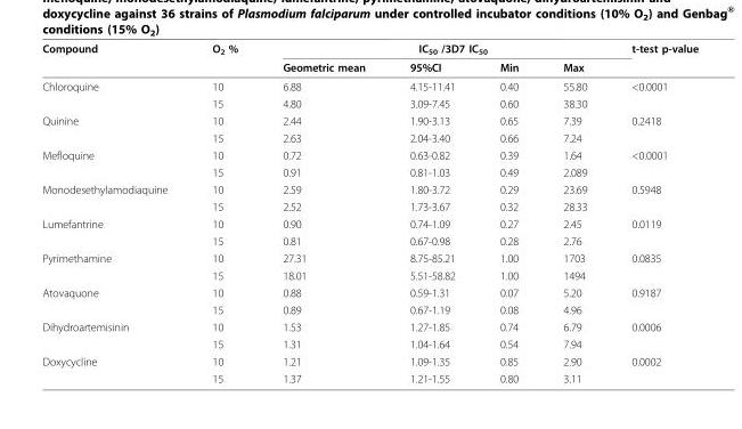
<table><thead><tr><td rowspan="2">Compound</td><td rowspan="2">O<sub>2</sub> %</td><td colspan="4">IC<sub>50</sub> /3D7 IC<sub>50</sub></td><td rowspan="2">t-test p-value</td></tr><tr><td>Geometric mean</td><td>95%CI</td><td>Min</td><td>Max</td></tr></thead><tbody><tr><td rowspan="2">Chloroquine</td><td>10</td><td>6.88</td><td>4.15-11.41</td><td>0.40</td><td>55.80</td><td>&lt;0.0001</td></tr><tr><td>15</td><td>4.80</td><td>3.09-7.45</td><td>0.60</td><td>38.30</td><td></td></tr><tr><td rowspan="2">Quinine</td><td>10</td><td>2.44</td><td>1.90-3.13</td><td>0.65</td><td>7.39</td><td>0.2418</td></tr><tr><td>15</td><td>2.63</td><td>2.04-3.40</td><td>0.66</td><td>7.24</td><td></td></tr><tr><td rowspan="2">Mefloquine</td><td>10</td><td>0.72</td><td>0.63-0.82</td><td>0.39</td><td>1.64</td><td>&lt;0.0001</td></tr><tr><td>15</td><td>0.91</td><td>0.81-1.03</td><td>0.49</td><td>2.089</td><td></td></tr><tr><td rowspan="2">Monodesethylamodiaquine</td><td>10</td><td>2.59</td><td>1.80-3.72</td><td>0.29</td><td>23.69</td><td>0.5948</td></tr><tr><td>15</td><td>2.52</td><td>1.73-3.67</td><td>0.32</td><td>28.33</td><td></td></tr><tr><td rowspan="2">Lumefantrine</td><td>10</td><td>0.90</td><td>0.74-1.09</td><td>0.27</td><td>2.45</td><td>0.0119</td></tr><tr><td>15</td><td>0.81</td><td>0.67-0.98</td><td>0.28</td><td>2.76</td><td></td></tr><tr><td rowspan="2">Pyrimethamine</td><td>10</td><td>27.31</td><td>8.75-85.21</td><td>1.00</td><td>1703</td><td>0.0835</td></tr><tr><td>15</td><td>18.01</td><td>5.51-58.82</td><td>1.00</td><td>1494</td><td></td></tr><tr><td rowspan="2">Atovaquone</td><td>10</td><td>0.88</td><td>0.59-1.31</td><td>0.07</td><td>5.20</td><td>0.9187</td></tr><tr><td>15</td><td>0.89</td><td>0.67-1.19</td><td>0.08</td><td>4.96</td><td></td></tr><tr><td rowspan="2">Dihydroartemisinin</td><td>10</td><td>1.53</td><td>1.27-1.85</td><td>0.74</td><td>6.79</td><td>0.0006</td></tr><tr><td>15</td><td>1.31</td><td>1.04-1.64</td><td>0.54</td><td>7.94</td><td></td></tr><tr><td rowspan="2">Doxycycline</td><td>10</td><td>1.21</td><td>1.09-1.35</td><td>0.85</td><td>2.90</td><td>0.0002</td></tr><tr><td>15</td><td>1.37</td><td>1.21-1.55</td><td>0.80</td><td>3.11</td><td></td></tr></tbody></table>